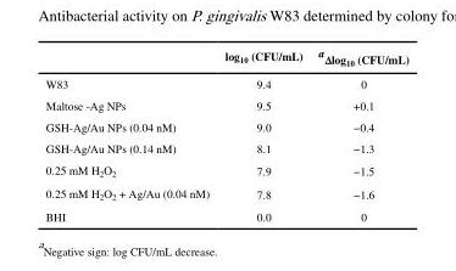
<table><thead><tr><td></td><td>log<sub>10</sub> (CFU/mL)</td><td><sup>a</sup>Δlog<sub>10</sub> (CFU/mL)</td></tr></thead><tbody><tr><td>W83</td><td>9.4</td><td>0</td></tr><tr><td>Maltose -Ag NPs</td><td>9.5</td><td>+0.1</td></tr><tr><td>GSH-Ag/Au NPs (0.04 nM)</td><td>9.0</td><td>−0.4</td></tr><tr><td>GSH-Ag/Au NPs (0.14 nM)</td><td>8.1</td><td>−1.3</td></tr><tr><td>0.25 mM H<sub>2</sub>O<sub>2</sub></td><td>7.9</td><td>−1.5</td></tr><tr><td>0.25 mM H<sub>2</sub>O<sub>2</sub> + Ag/Au (0.04 nM)</td><td>7.8</td><td>−1.6</td></tr><tr><td>BHI</td><td>0.0</td><td>0</td></tr></tbody></table>